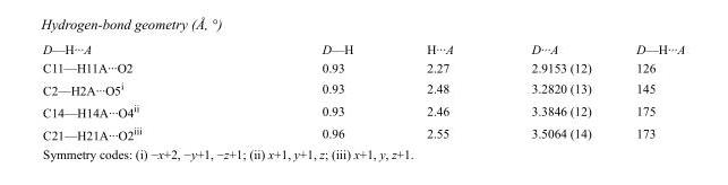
<table><tbody><tr><td>D—H···A</td><td>D—H</td><td>H···A</td><td>D···A</td><td>D—H···A</td></tr><tr><td>C11—H11A···O2</td><td>0.93</td><td>2.27</td><td>2.9153 (12)</td><td>126</td></tr><tr><td>C2—H2A···O5<sup>i</sup></td><td>0.93</td><td>2.48</td><td>3.2820 (13)</td><td>145</td></tr><tr><td>C14—H14A···O4<sup>ii</sup></td><td>0.93</td><td>2.46</td><td>3.3846 (12)</td><td>175</td></tr><tr><td>C21—H21A···O2<sup>iii</sup></td><td>0.96</td><td>2.55</td><td>3.5064 (14)</td><td>173</td></tr></tbody></table>